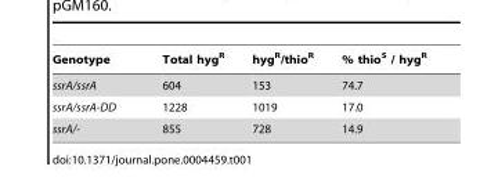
<table><thead><tr><td>Genotype</td><td>Total hyg<sup>R</sup></td><td>hyg<sup>R</sup>/thio<sup>R</sup></td><td>% thio<sup>S</sup> / hyg<sup>R</sup></td></tr></thead><tbody><tr><td>ssrA/ssrA</td><td>604</td><td>153</td><td>74.7</td></tr><tr><td>ssrA/ssrA-DD</td><td>1228</td><td>1019</td><td>17.0</td></tr><tr><td>ssrA/-</td><td>855</td><td>728</td><td>14.9</td></tr></tbody></table>